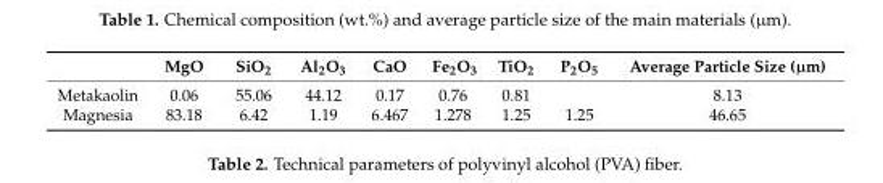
<table><thead><tr><td></td><td>MgO</td><td>SiO<sub>2</sub></td><td>Al<sub>2</sub>O<sub>3</sub></td><td>CaO</td><td>Fe<sub>2</sub>O<sub>3</sub></td><td>TiO<sub>2</sub></td><td>P<sub>2</sub>O<sub>5</sub></td><td>Average Particle Size (µm)</td></tr></thead><tbody><tr><td>Metakaolin</td><td>0.06</td><td>55.06</td><td>44.12</td><td>0.17</td><td>0.76</td><td>0.81</td><td></td><td>8.13</td></tr><tr><td>Magnesia</td><td>83.18</td><td>6.42</td><td>1.19</td><td>6.467</td><td>1.278</td><td>1.25</td><td>1.25</td><td>46.65</td></tr></tbody></table>